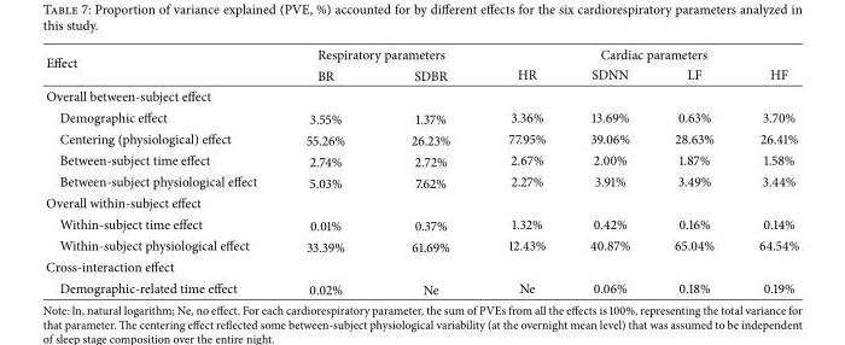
<table><thead><tr><td rowspan="2">Effect</td><td colspan="2">Respiratory parameters</td><td colspan="4">Cardiac parameters</td></tr><tr><td>BR</td><td>SDBR</td><td>HR</td><td>SDNN</td><td>LF</td><td>HF</td></tr></thead><tbody><tr><td colspan="7">Overall between-subject effect</td></tr><tr><td>Demographic effect</td><td>3.55%</td><td>1.37%</td><td>3.36%</td><td>13.69%</td><td>0.63%</td><td>3.70%</td></tr><tr><td>Centering (physiological) effect</td><td>55.26%</td><td>26.23%</td><td>77.95%</td><td>39.06%</td><td>28.63%</td><td>26.41%</td></tr><tr><td>Between-subject time effect</td><td>2.74%</td><td>2.72%</td><td>2.67%</td><td>2.00%</td><td>1.87%</td><td>1.58%</td></tr><tr><td>Between-subject physiological effect</td><td>5.03%</td><td>7.62%</td><td>2.27%</td><td>3.91%</td><td>3.49%</td><td>3.44%</td></tr><tr><td colspan="7">Overall within-subject effect</td></tr><tr><td>Within-subject time effect</td><td>0.01%</td><td>0.37%</td><td>1.32%</td><td>0.42%</td><td>0.16%</td><td>0.14%</td></tr><tr><td>Within-subject physiological effect</td><td>33.39%</td><td>61.69%</td><td>12.43%</td><td>40.87%</td><td>65.04%</td><td>64.54%</td></tr><tr><td colspan="7">Cross-interaction effect</td></tr><tr><td>Demographic-related time effect</td><td>0.02%</td><td>Ne</td><td>Ne</td><td>0.06%</td><td>0.18%</td><td>0.19%</td></tr></tbody></table>